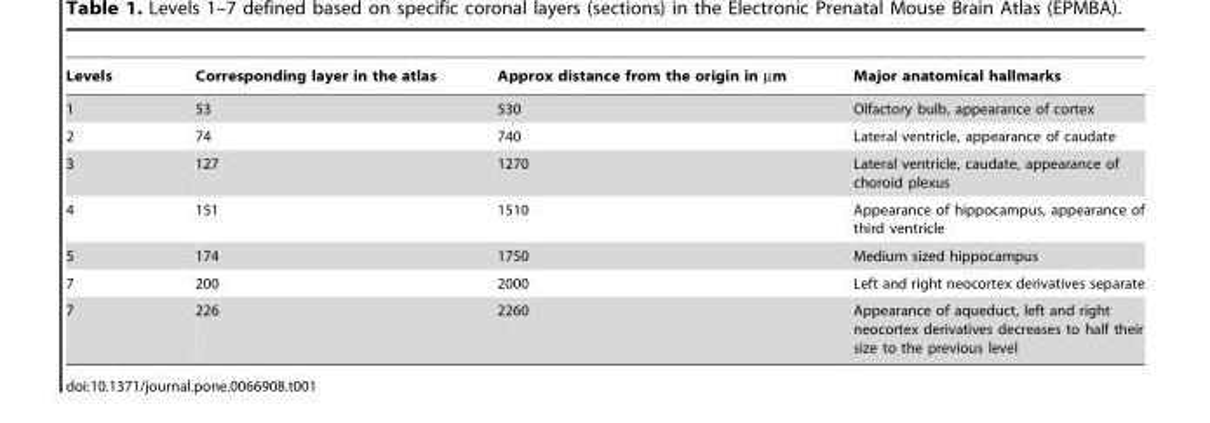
<table><thead><tr><td>Levels</td><td>Corresponding layer in the atlas</td><td>Approx distance from the origin in µm</td><td>Major anatomical hallmarks</td></tr></thead><tbody><tr><td>1</td><td>53</td><td>530</td><td>Olfactory bulb, appearance of cortex</td></tr><tr><td>2</td><td>74</td><td>740</td><td>Lateral ventricle, appearance of caudate</td></tr><tr><td>3</td><td>127</td><td>1270</td><td>Lateral ventricle, caudate, appearance of choroid plexus</td></tr><tr><td>4</td><td>151</td><td>1510</td><td>Appearance of hippocampus, appearance of third ventricle</td></tr><tr><td>5</td><td>174</td><td>1750</td><td>Medium sized hippocampus</td></tr><tr><td>7</td><td>200</td><td>2000</td><td>Left and right neocortex derivatives separate</td></tr><tr><td>7</td><td>226</td><td>2260</td><td>Appearance of aqueduct, left and right neocortex derivatives decreases to half their size to the previous level</td></tr></tbody></table>